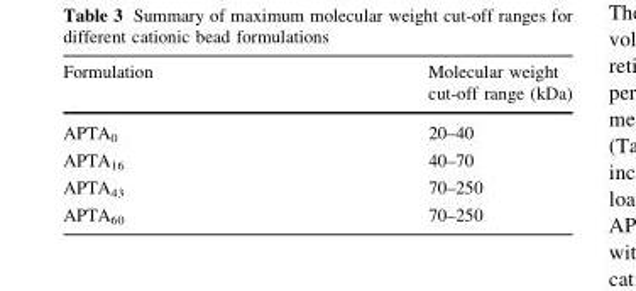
<table><thead><tr><td>Formulation</td><td>Molecular weight cut-off range (kDa)</td></tr></thead><tbody><tr><td>APTA<sub>0</sub></td><td>20–40</td></tr><tr><td>APTA<sub>16</sub></td><td>40–70</td></tr><tr><td>APTA<sub>43</sub></td><td>70–250</td></tr><tr><td>APTA<sub>60</sub></td><td>70–250</td></tr></tbody></table>